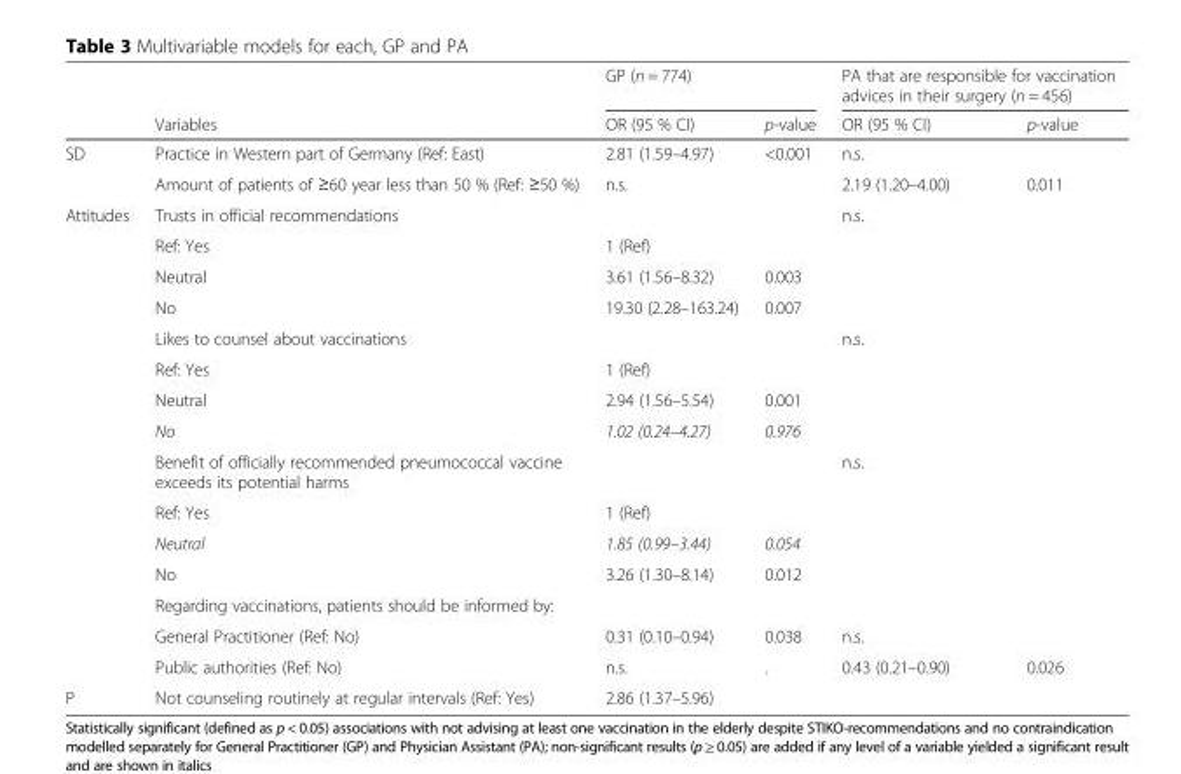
<table><thead><tr><td rowspan="2"></td><td rowspan="2">Variables</td><td colspan="2">GP (n = 774)</td><td colspan="2">PA that are responsible for vaccination advices in their surgery (n = 456)</td></tr><tr><td>OR (95 % CI)</td><td>p-value</td><td>OR (95 % CI)</td><td>p-value</td></tr></thead><tbody><tr><td rowspan="2">SD</td><td>Practice in Western part of Germany (Ref: East)</td><td>2.81 (1.59–4.97)</td><td>&lt;0.001</td><td>n.s.</td><td></td></tr><tr><td>Amount of patients of ≥60 year less than 50 % (Ref: ≥50 %)</td><td>n.s.</td><td></td><td>2.19 (1.20–4.00)</td><td>0.011</td></tr><tr><td rowspan="15">Attitudes</td><td>Trusts in official recommendations</td><td></td><td></td><td>n.s.</td><td></td></tr><tr><td>Ref: Yes</td><td>1 (Ref)</td><td></td><td></td><td></td></tr><tr><td>Neutral</td><td>3.61 (1.56–8.32)</td><td>0.003</td><td></td><td></td></tr><tr><td>No</td><td>19.30 (2.28–163.24)</td><td>0.007</td><td></td><td></td></tr><tr><td>Likes to counsel about vaccinations</td><td></td><td></td><td>n.s.</td><td></td></tr><tr><td>Ref: Yes</td><td>1 (Ref)</td><td></td><td></td><td></td></tr><tr><td>Neutral</td><td>2.94 (1.56–5.54)</td><td>0.001</td><td></td><td></td></tr><tr><td>No</td><td>1.02 (0.24–4.27)</td><td>0.976</td><td></td><td></td></tr><tr><td>Benefit of officially recommended pneumococcal vaccine exceeds its potential harms</td><td></td><td></td><td>n.s.</td><td></td></tr><tr><td>Ref: Yes</td><td>1 (Ref)</td><td></td><td></td><td></td></tr><tr><td>Neutral</td><td>1.85 (0.99–3.44)</td><td>0.054</td><td></td><td></td></tr><tr><td>No</td><td>3.26 (1.30–8.14)</td><td>0.012</td><td></td><td></td></tr><tr><td>Regarding vaccinations, patients should be informed by:</td><td></td><td></td><td></td><td></td></tr><tr><td>General Practitioner (Ref: No)</td><td>0.31 (0.10–0.94)</td><td>0.038</td><td>n.s.</td><td></td></tr><tr><td>Public authorities (Ref: No)</td><td>n.s.</td><td>.</td><td>0.43 (0.21–0.90)</td><td>0.026</td></tr><tr><td>P</td><td>Not counseling routinely at regular intervals (Ref: Yes)</td><td>2.86 (1.37–5.96)</td><td></td><td></td><td></td></tr></tbody></table>